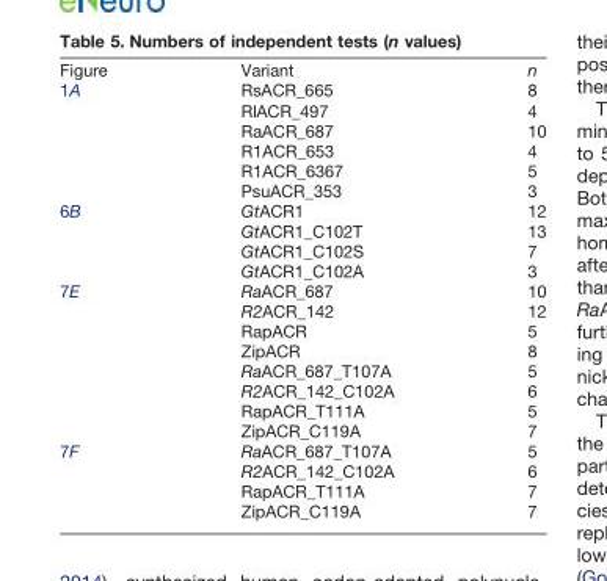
<table><thead><tr><td>Figure</td><td>Variant</td><td>n</td></tr></thead><tbody><tr><td rowspan="6">1A</td><td>RsACR_665</td><td>8</td></tr><tr><td>RlACR_497</td><td>4</td></tr><tr><td>RaACR_687</td><td>10</td></tr><tr><td>R1ACR_653</td><td>4</td></tr><tr><td>R1ACR_6367</td><td>5</td></tr><tr><td>PsuACR_353</td><td>3</td></tr><tr><td rowspan="4">6B</td><td>GtACR1</td><td>12</td></tr><tr><td>GtACR1_C102T</td><td>13</td></tr><tr><td>GtACR1_C102S</td><td>7</td></tr><tr><td>GtACR1_C102A</td><td>3</td></tr><tr><td rowspan="8">7E</td><td>RaACR_687</td><td>10</td></tr><tr><td>R2ACR_142</td><td>12</td></tr><tr><td>RapACR</td><td>5</td></tr><tr><td>ZipACR</td><td>8</td></tr><tr><td>RaACR_687_T107A</td><td>5</td></tr><tr><td>R2ACR_142_C102A</td><td>6</td></tr><tr><td>RapACR_T111A</td><td>5</td></tr><tr><td>ZipACR_C119A</td><td>7</td></tr><tr><td rowspan="4">7F</td><td>RaACR_687_T107A</td><td>5</td></tr><tr><td>R2ACR_142_C102A</td><td>6</td></tr><tr><td>RapACR_T111A</td><td>7</td></tr><tr><td>ZipACR_C119A</td><td>7</td></tr></tbody></table>